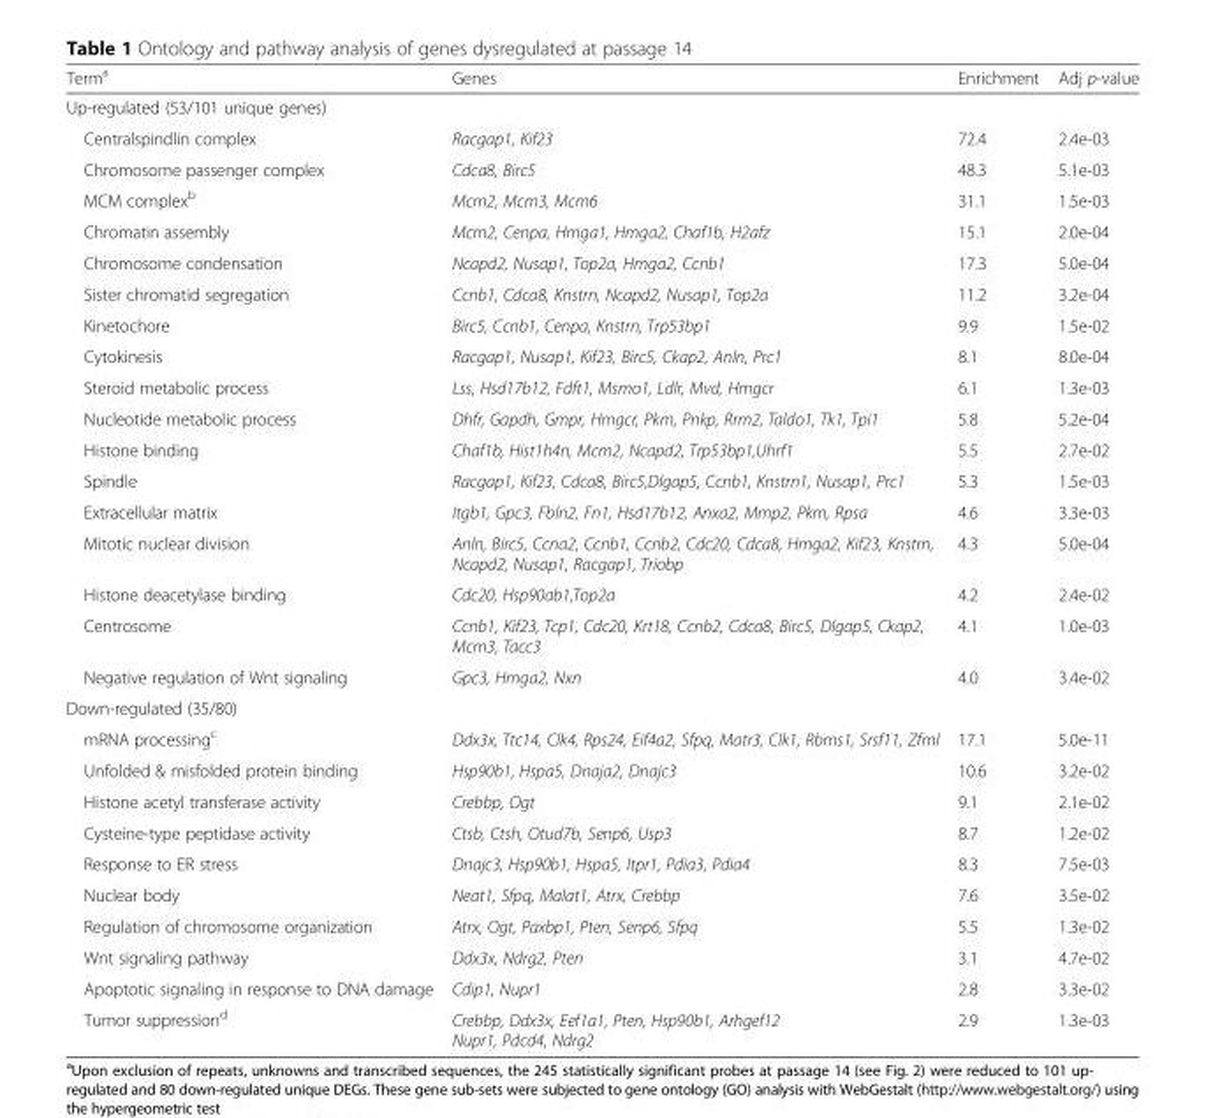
<table><thead><tr><td>Term<sup>a</sup></td><td>Genes</td><td>Enrichment</td><td>Adj p-value</td></tr></thead><tbody><tr><td colspan="4">Up-regulated (53/101 unique genes)</td></tr><tr><td>Centralspindlin complex</td><td>Racgap1, Kif23</td><td>72.4</td><td>2.4e-03</td></tr><tr><td>Chromosome passenger complex</td><td>Cdca8, Birc5</td><td>48.3</td><td>5.1e-03</td></tr><tr><td>MCM complex<sup>b</sup></td><td>Mcm2, Mcm3, Mcm6</td><td>31.1</td><td>1.5e-03</td></tr><tr><td>Chromatin assembly</td><td>Mcm2, Cenpa, Hmga1, Hmga2, Chaf1b, H2afz</td><td>15.1</td><td>2.0e-04</td></tr><tr><td>Chromosome condensation</td><td>Ncapd2, Nusap1, Top2a, Hmga2, Ccnb1</td><td>17.3</td><td>5.0e-04</td></tr><tr><td>Sister chromatid segregation</td><td>Ccnb1, Cdca8, Knstrn, Ncapd2, Nusap1, Top2a</td><td>11.2</td><td>3.2e-04</td></tr><tr><td>Kinetochore</td><td>Birc5, Ccnb1, Cenpa, Knstrn, Trp53bp1</td><td>9.9</td><td>1.5e-02</td></tr><tr><td>Cytokinesis</td><td>Racgap1, Nusap1, Kif23, Birc5, Ckap2, Anln, Prc1</td><td>8.1</td><td>8.0e-04</td></tr><tr><td>Steroid metabolic process</td><td>Lss, Hsd17b12, Fdft1, Msmo1, Ldlr, Mvd, Hmgcr</td><td>6.1</td><td>1.3e-03</td></tr><tr><td>Nucleotide metabolic process</td><td>Dhfr, Gapdh, Gmpr, Hmgcr, Pkm, Pnkp, Rrm2, Taldo1, Tk1, Tpi1</td><td>5.8</td><td>5.2e-04</td></tr><tr><td>Histone binding</td><td>Chaf1b, Hist1h4n, Mcm2, Ncapd2, Trp53bp1,Uhrf1</td><td>5.5</td><td>2.7e-02</td></tr><tr><td>Spindle</td><td>Racgap1, Kif23, Cdca8, Birc5,Dlgap5, Ccnb1, Knstrn1, Nusap1, Prc1</td><td>5.3</td><td>1.5e-03</td></tr><tr><td>Extracellular matrix</td><td>Itgb1, Gpc3, Fbln2, Fn1, Hsd17b12, Anxa2, Mmp2, Pkm, Rpsa</td><td>4.6</td><td>3.3e-03</td></tr><tr><td>Mitotic nuclear division</td><td>Anln, Birc5, Ccna2, Ccnb1, Ccnb2, Cdc20, Cdca8, Hmga2, Kif23, Knstrn, Ncapd2, Nusap1, Racgap1, Triobp</td><td>4.3</td><td>5.0e-04</td></tr><tr><td>Histone deacetylase binding</td><td>Cdc20, Hsp90ab1,Top2a</td><td>4.2</td><td>2.4e-02</td></tr><tr><td>Centrosome</td><td>Ccnb1, Kif23, Tcp1, Cdc20, Krt18, Ccnb2, Cdca8, Birc5, Dlgap5, Ckap2, Mcm3, Tacc3</td><td>4.1</td><td>1.0e-03</td></tr><tr><td>Negative regulation of Wnt signaling</td><td>Gpc3, Hmga2, Nxn</td><td>4.0</td><td>3.4e-02</td></tr><tr><td colspan="4">Down-regulated (35/80)</td></tr><tr><td>mRNA processing<sup>c</sup></td><td>Ddx3x, Ttc14, Clk4, Rps24, Eif4a2, Sfpq, Matr3, Clk1, Rbms1, Srsf11, Zfml</td><td>17.1</td><td>5.0e-11</td></tr><tr><td>Unfolded &amp; misfolded protein binding</td><td>Hsp90b1, Hspa5, Dnaja2, Dnajc3</td><td>10.6</td><td>3.2e-02</td></tr><tr><td>Histone acetyl transferase activity</td><td>Crebbp, Ogt</td><td>9.1</td><td>2.1e-02</td></tr><tr><td>Cysteine-type peptidase activity</td><td>Ctsb, Ctsh, Otud7b, Senp6, Usp3</td><td>8.7</td><td>1.2e-02</td></tr><tr><td>Response to ER stress</td><td>Dnajc3, Hsp90b1, Hspa5, Itpr1, Pdia3, Pdia4</td><td>8.3</td><td>7.5e-03</td></tr><tr><td>Nuclear body</td><td>Neat1, Sfpq, Malat1, Atrx, Crebbp</td><td>7.6</td><td>3.5e-02</td></tr><tr><td>Regulation of chromosome organization</td><td>Atrx, Ogt, Paxbp1, Pten, Senp6, Sfpq</td><td>5.5</td><td>1.3e-02</td></tr><tr><td>Wnt signaling pathway</td><td>Ddx3x, Ndrg2, Pten</td><td>3.1</td><td>4.7e-02</td></tr><tr><td>Apoptotic signaling in response to DNA damage</td><td>Cdip1, Nupr1</td><td>2.8</td><td>3.3e-02</td></tr><tr><td>Tumor suppression<sup>d</sup></td><td>Crebbp, Ddx3x, Eef1a1, Pten, Hsp90b1, Arhgef12 Nupr1, Pdcd4, Ndrg2</td><td>2.9</td><td>1.3e-03</td></tr></tbody></table>